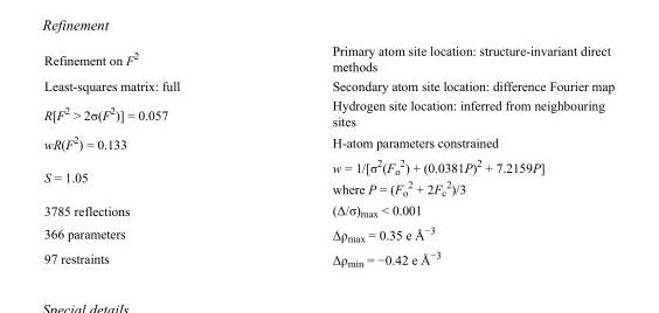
<table><tbody><tr><td>Refinement on F<sup>2</sup></td><td>Primary atom site location: structure-invariant direct methods</td></tr><tr><td>Least-squares matrix: full</td><td>Secondary atom site location: difference Fourier map</td></tr><tr><td>R[F<sup>2</sup> &gt; 2σ(F<sup>2</sup>)] = 0.057</td><td>Hydrogen site location: inferred from neighbouring sites</td></tr><tr><td>wR(F<sup>2</sup>) = 0.133</td><td>H-atom parameters constrained</td></tr><tr><td>S = 1.05</td><td>w = 1/[σ<sup>2</sup>(F<sub>o</sub> <sup>2</sup>) + (0.0381P)<sup>2</sup> + 7.2159P] where P = (F<sub>o</sub> <sup>2</sup> + 2F<sub>c</sub> <sup>2</sup>)/3</td></tr><tr><td>3785 reflections</td><td>(Δ/σ)<sub>max</sub> &lt; 0.001</td></tr><tr><td>366 parameters</td><td>Δρ<sub>max</sub> = 0.35 e Å<sup>−3</sup></td></tr><tr><td>97 restraints</td><td>Δρ<sub>min</sub> = −0.42 e Å<sup>−3</sup></td></tr></tbody></table>